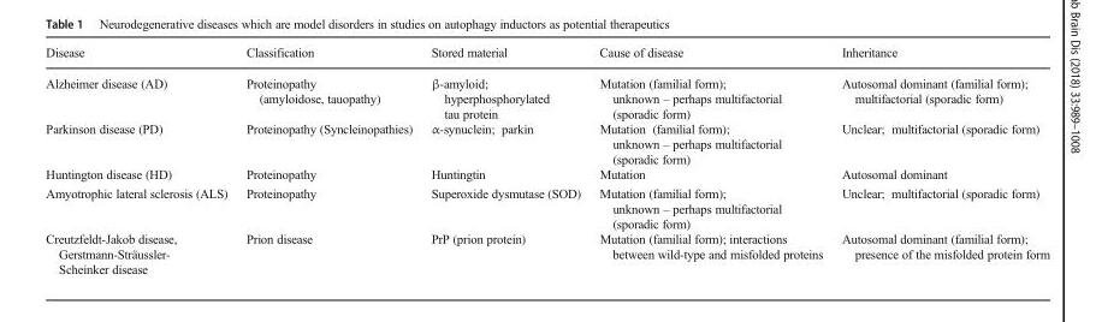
<table><thead><tr><td>Disease</td><td>Classification</td><td>Stored material</td><td>Cause of disease</td><td>Inheritance</td></tr></thead><tbody><tr><td>Alzheimer disease (AD)</td><td>Proteinopathy (amyloidose, tauopathy)</td><td>β-amyloid; hyperphosphorylated tau protein</td><td>Mutation (familial form); unknown – perhaps multifactorial (sporadic form)</td><td>Autosomal dominant (familial form); multifactorial (sporadic form)</td></tr><tr><td>Parkinson disease (PD)</td><td>Proteinopathy (Syncleinopathies)</td><td>α-synuclein; parkin</td><td>Mutation (familial form); unknown – perhaps multifactorial (sporadic form)</td><td>Unclear; multifactorial (sporadic form)</td></tr><tr><td>Huntington disease (HD)</td><td>Proteinopathy</td><td>Huntingtin</td><td>Mutation</td><td>Autosomal dominant</td></tr><tr><td>Amyotrophic lateral sclerosis (ALS)</td><td>Proteinopathy</td><td>Superoxide dysmutase (SOD)</td><td>Mutation (familial form); unknown – perhaps multifactorial (sporadic form)</td><td>Unclear; multifactorial (sporadic form)</td></tr><tr><td>Creutzfeldt-Jakob disease, Gerstmann-Sträussler- Scheinker disease</td><td>Prion disease</td><td>PrP (prion protein)</td><td>Mutation (familial form); interactions between wild-type and misfolded proteins</td><td>Autosomal dominant (familial form); presence of the misfolded protein form</td></tr></tbody></table>